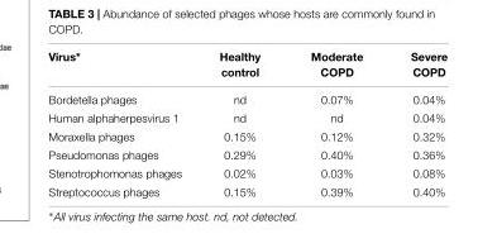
<table><thead><tr><td>Virus∗</td><td>Healthy control</td><td>Moderate COPD</td><td>Severe COPD</td></tr></thead><tbody><tr><td>Bordetella phages</td><td>nd</td><td>0.07%</td><td>0.04%</td></tr><tr><td>Human alphaherpesvirus 1</td><td>nd</td><td>nd</td><td>0.04%</td></tr><tr><td>Moraxella phages</td><td>0.15%</td><td>0.12%</td><td>0.32%</td></tr><tr><td>Pseudomonas phages</td><td>0.29%</td><td>0.40%</td><td>0.36%</td></tr><tr><td>Stenotrophomonas phages</td><td>0.02%</td><td>0.03%</td><td>0.08%</td></tr><tr><td>Streptococcus phages</td><td>0.15%</td><td>0.39%</td><td>0.40%</td></tr></tbody></table>